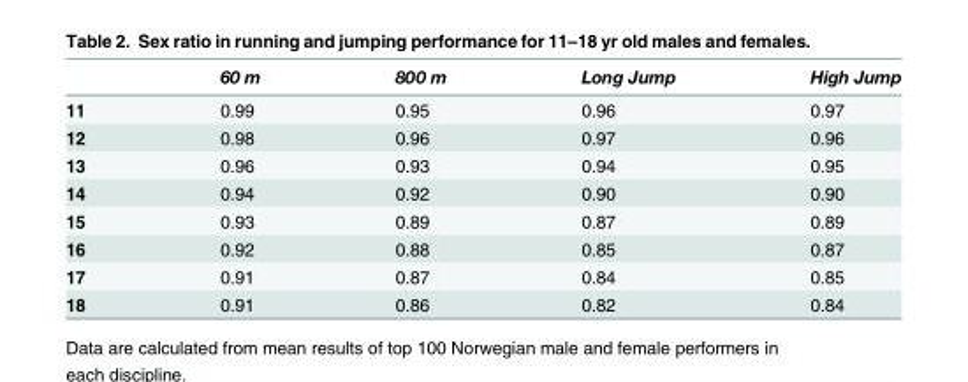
<table><thead><tr><td></td><td>60 m</td><td>800 m</td><td>Long Jump</td><td>High Jump</td></tr></thead><tbody><tr><td>11</td><td>0.99</td><td>0.95</td><td>0.96</td><td>0.97</td></tr><tr><td>12</td><td>0.98</td><td>0.96</td><td>0.97</td><td>0.96</td></tr><tr><td>13</td><td>0.96</td><td>0.93</td><td>0.94</td><td>0.95</td></tr><tr><td>14</td><td>0.94</td><td>0.92</td><td>0.90</td><td>0.90</td></tr><tr><td>15</td><td>0.93</td><td>0.89</td><td>0.87</td><td>0.89</td></tr><tr><td>16</td><td>0.92</td><td>0.88</td><td>0.85</td><td>0.87</td></tr><tr><td>17</td><td>0.91</td><td>0.87</td><td>0.84</td><td>0.85</td></tr><tr><td>18</td><td>0.91</td><td>0.86</td><td>0.82</td><td>0.84</td></tr></tbody></table>